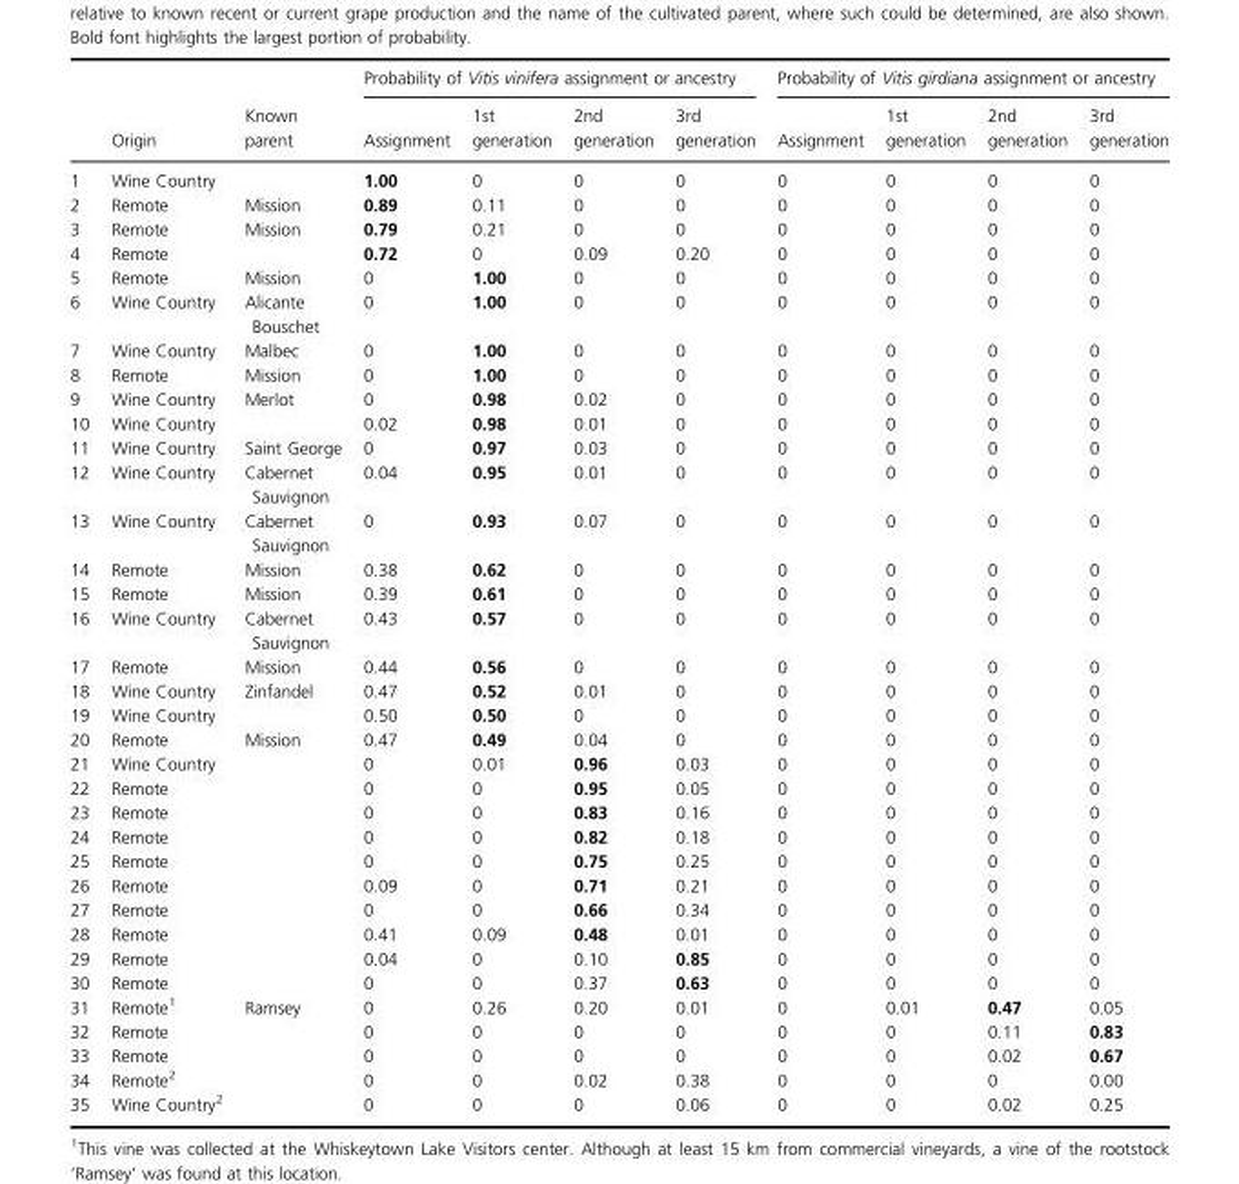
<table><thead><tr><td rowspan="2"></td><td rowspan="2">Origin</td><td rowspan="2">Known parent</td><td colspan="4">Probability of Vitis vinifera assignment or ancestry</td><td colspan="4">Probability of Vitis girdiana assignment or ancestry</td></tr><tr><td>Assignment</td><td>1st generation</td><td>2nd generation</td><td>3rd generation</td><td>Assignment</td><td>1st generation</td><td>2nd generation</td><td>3rd generation</td></tr></thead><tbody><tr><td>1</td><td>Wine Country</td><td></td><td>1.00</td><td>0</td><td>0</td><td>0</td><td>0</td><td>0</td><td>0</td><td>0</td></tr><tr><td>2</td><td>Remote</td><td>Mission</td><td>0.89</td><td>0.11</td><td>0</td><td>0</td><td>0</td><td>0</td><td>0</td><td>0</td></tr><tr><td>3</td><td>Remote</td><td>Mission</td><td>0.79</td><td>0.21</td><td>0</td><td>0</td><td>0</td><td>0</td><td>0</td><td>0</td></tr><tr><td>4</td><td>Remote</td><td></td><td>0.72</td><td>0</td><td>0.09</td><td>0.20</td><td>0</td><td>0</td><td>0</td><td>0</td></tr><tr><td>5</td><td>Remote</td><td>Mission</td><td>0</td><td>1.00</td><td>0</td><td>0</td><td>0</td><td>0</td><td>0</td><td>0</td></tr><tr><td>6</td><td>Wine Country</td><td>Alicante Bouschet</td><td>0</td><td>1.00</td><td>0</td><td>0</td><td>0</td><td>0</td><td>0</td><td>0</td></tr><tr><td>7</td><td>Wine Country</td><td>Malbec</td><td>0</td><td>1.00</td><td>0</td><td>0</td><td>0</td><td>0</td><td>0</td><td>0</td></tr><tr><td>8</td><td>Remote</td><td>Mission</td><td>0</td><td>1.00</td><td>0</td><td>0</td><td>0</td><td>0</td><td>0</td><td>0</td></tr><tr><td>9</td><td>Wine Country</td><td>Merlot</td><td>0</td><td>0.98</td><td>0.02</td><td>0</td><td>0</td><td>0</td><td>0</td><td>0</td></tr><tr><td>10</td><td>Wine Country</td><td></td><td>0.02</td><td>0.98</td><td>0.01</td><td>0</td><td>0</td><td>0</td><td>0</td><td>0</td></tr><tr><td>11</td><td>Wine Country</td><td>Saint George</td><td>0</td><td>0.97</td><td>0.03</td><td>0</td><td>0</td><td>0</td><td>0</td><td>0</td></tr><tr><td>12</td><td>Wine Country</td><td>Cabernet Sauvignon</td><td>0.04</td><td>0.95</td><td>0.01</td><td>0</td><td>0</td><td>0</td><td>0</td><td>0</td></tr><tr><td>13</td><td>Wine Country</td><td>Cabernet Sauvignon</td><td>0</td><td>0.93</td><td>0.07</td><td>0</td><td>0</td><td>0</td><td>0</td><td>0</td></tr><tr><td>14</td><td>Remote</td><td>Mission</td><td>0.38</td><td>0.62</td><td>0</td><td>0</td><td>0</td><td>0</td><td>0</td><td>0</td></tr><tr><td>15</td><td>Remote</td><td>Mission</td><td>0.39</td><td>0.61</td><td>0</td><td>0</td><td>0</td><td>0</td><td>0</td><td>0</td></tr><tr><td>16</td><td>Wine Country</td><td>Cabernet Sauvignon</td><td>0.43</td><td>0.57</td><td>0</td><td>0</td><td>0</td><td>0</td><td>0</td><td>0</td></tr><tr><td>17</td><td>Remote</td><td>Mission</td><td>0.44</td><td>0.56</td><td>0</td><td>0</td><td>0</td><td>0</td><td>0</td><td>0</td></tr><tr><td>18</td><td>Wine Country</td><td>Zinfandel</td><td>0.47</td><td>0.52</td><td>0.01</td><td>0</td><td>0</td><td>0</td><td>0</td><td>0</td></tr><tr><td>19</td><td>Wine Country</td><td></td><td>0.50</td><td>0.50</td><td>0</td><td>0</td><td>0</td><td>0</td><td>0</td><td>0</td></tr><tr><td>20</td><td>Remote</td><td>Mission</td><td>0.47</td><td>0.49</td><td>0.04</td><td>0</td><td>0</td><td>0</td><td>0</td><td>0</td></tr><tr><td>21</td><td>Wine Country</td><td></td><td>0</td><td>0.01</td><td>0.96</td><td>0.03</td><td>0</td><td>0</td><td>0</td><td>0</td></tr><tr><td>22</td><td>Remote</td><td></td><td>0</td><td>0</td><td>0.95</td><td>0.05</td><td>0</td><td>0</td><td>0</td><td>0</td></tr><tr><td>23</td><td>Remote</td><td></td><td>0</td><td>0</td><td>0.83</td><td>0.16</td><td>0</td><td>0</td><td>0</td><td>0</td></tr><tr><td>24</td><td>Remote</td><td></td><td>0</td><td>0</td><td>0.82</td><td>0.18</td><td>0</td><td>0</td><td>0</td><td>0</td></tr><tr><td>25</td><td>Remote</td><td></td><td>0</td><td>0</td><td>0.75</td><td>0.25</td><td>0</td><td>0</td><td>0</td><td>0</td></tr><tr><td>26</td><td>Remote</td><td></td><td>0.09</td><td>0</td><td>0.71</td><td>0.21</td><td>0</td><td>0</td><td>0</td><td>0</td></tr><tr><td>27</td><td>Remote</td><td></td><td>0</td><td>0</td><td>0.66</td><td>0.34</td><td>0</td><td>0</td><td>0</td><td>0</td></tr><tr><td>28</td><td>Remote</td><td></td><td>0.41</td><td>0.09</td><td>0.48</td><td>0.01</td><td>0</td><td>0</td><td>0</td><td>0</td></tr><tr><td>29</td><td>Remote</td><td></td><td>0.04</td><td>0</td><td>0.10</td><td>0.85</td><td>0</td><td>0</td><td>0</td><td>0</td></tr><tr><td>30</td><td>Remote</td><td></td><td>0</td><td>0</td><td>0.37</td><td>0.63</td><td>0</td><td>0</td><td>0</td><td>0</td></tr><tr><td>31</td><td>Remote1</td><td>Ramsey</td><td>0</td><td>0.26</td><td>0.20</td><td>0.01</td><td>0</td><td>0.01</td><td>0.47</td><td>0.05</td></tr><tr><td>32</td><td>Remote</td><td></td><td>0</td><td>0</td><td>0</td><td>0</td><td>0</td><td>0</td><td>0.11</td><td>0.83</td></tr><tr><td>33</td><td>Remote</td><td></td><td>0</td><td>0</td><td>0</td><td>0</td><td>0</td><td>0</td><td>0.02</td><td>0.67</td></tr><tr><td>34</td><td>Remote2</td><td></td><td>0</td><td>0</td><td>0.02</td><td>0.38</td><td>0</td><td>0</td><td>0</td><td>0.00</td></tr><tr><td>35</td><td>Wine Country2</td><td></td><td>0</td><td>0</td><td>0</td><td>0.06</td><td>0</td><td>0</td><td>0.02</td><td>0.25</td></tr></tbody></table>